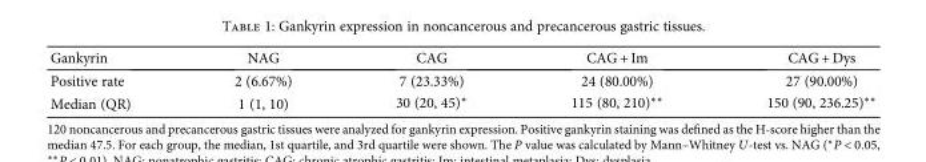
<table><thead><tr><td>Gankyrin</td><td>NAG</td><td>CAG</td><td>CAG + Im</td><td>CAG + Dys</td></tr></thead><tbody><tr><td>Positive rate</td><td>2 (6.67%)</td><td>7 (23.33%)</td><td>24 (80.00%)</td><td>27 (90.00%)</td></tr><tr><td>Median (QR)</td><td>1 (1, 10)</td><td>30 (20, 45)∗</td><td>115 (80, 210)∗∗</td><td>150 (90, 236.25)∗∗</td></tr></tbody></table>